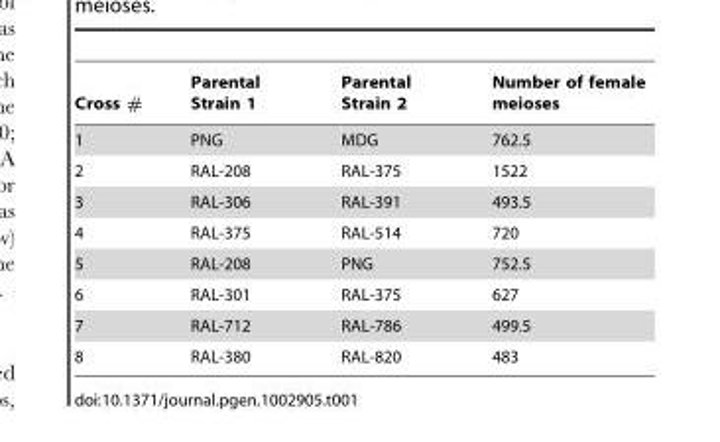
<table><thead><tr><td>Cross #</td><td>Parental Strain 1</td><td>Parental Strain 2</td><td>Number of female meioses</td></tr></thead><tbody><tr><td>1</td><td>PNG</td><td>MDG</td><td>762.5</td></tr><tr><td>2</td><td>RAL-208</td><td>RAL-375</td><td>1522</td></tr><tr><td>3</td><td>RAL-306</td><td>RAL-391</td><td>493.5</td></tr><tr><td>4</td><td>RAL-375</td><td>RAL-514</td><td>720</td></tr><tr><td>5</td><td>RAL-208</td><td>PNG</td><td>752.5</td></tr><tr><td>6</td><td>RAL-301</td><td>RAL-375</td><td>627</td></tr><tr><td>7</td><td>RAL-712</td><td>RAL-786</td><td>499.5</td></tr><tr><td>8</td><td>RAL-380</td><td>RAL-820</td><td>483</td></tr></tbody></table>